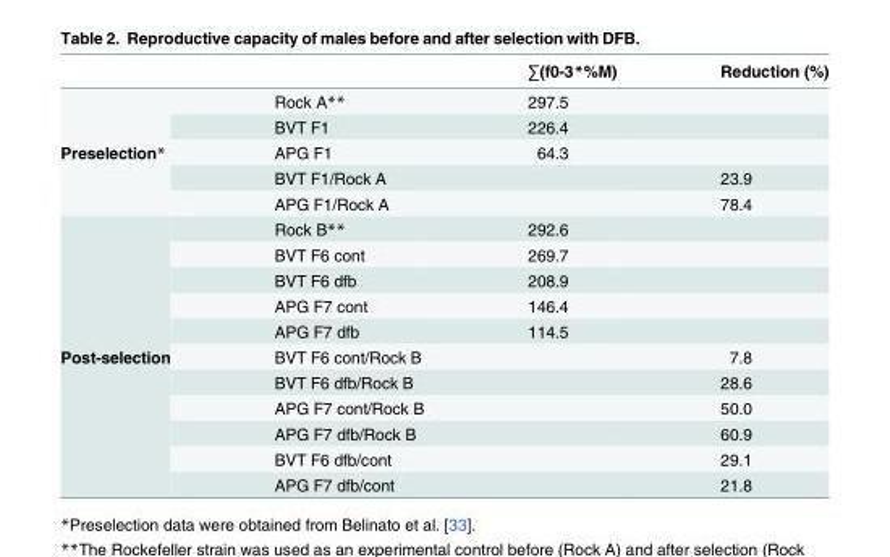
<table><thead><tr><td></td><td></td><td>∑(f0-3*%M)</td><td>Reduction (%)</td></tr></thead><tbody><tr><td rowspan="5">Preselection*</td><td>Rock A**</td><td>297.5</td><td></td></tr><tr><td>BVT F1</td><td>226.4</td><td></td></tr><tr><td>APG F1</td><td>64.3</td><td></td></tr><tr><td>BVT F1/Rock A</td><td></td><td>23.9</td></tr><tr><td>APG F1/Rock A</td><td></td><td>78.4</td></tr><tr><td rowspan="11">Post-selection</td><td>Rock B**</td><td>292.6</td><td></td></tr><tr><td>BVT F6 cont</td><td>269.7</td><td></td></tr><tr><td>BVT F6 dfb</td><td>208.9</td><td></td></tr><tr><td>APG F7 cont</td><td>146.4</td><td></td></tr><tr><td>APG F7 dfb</td><td>114.5</td><td></td></tr><tr><td>BVT F6 cont/Rock B</td><td></td><td>7.8</td></tr><tr><td>BVT F6 dfb/Rock B</td><td></td><td>28.6</td></tr><tr><td>APG F7 cont/Rock B</td><td></td><td>50.0</td></tr><tr><td>APG F7 dfb/Rock B</td><td></td><td>60.9</td></tr><tr><td>BVT F6 dfb/cont</td><td></td><td>29.1</td></tr><tr><td>APG F7 dfb/cont</td><td></td><td>21.8</td></tr></tbody></table>